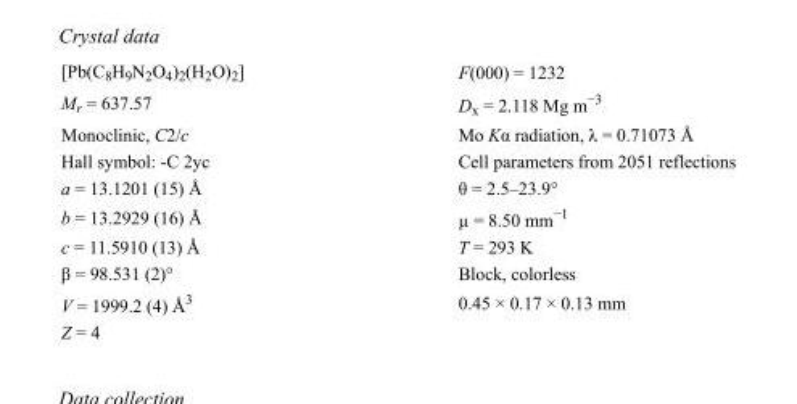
<table><tbody><tr><td>[Pb(C<sub>8</sub>H<sub>9</sub>N<sub>2</sub>O<sub>4</sub>)<sub>2</sub>(H<sub>2</sub>O)<sub>2</sub>]</td><td>F(000) = 1232</td></tr><tr><td>M<sub>r</sub> = 637.57</td><td>D<sub>x</sub> = 2.118 Mg m<sup>−3</sup></td></tr><tr><td>Monoclinic, C2/c</td><td>Mo Kα radiation, λ = 0.71073 Å</td></tr><tr><td>Hall symbol: -C 2yc</td><td>Cell parameters from 2051 reflections</td></tr><tr><td>a = 13.1201 (15) Å</td><td>θ = 2.5–23.9°</td></tr><tr><td>b = 13.2929 (16) Å</td><td>µ = 8.50 mm<sup>−1</sup></td></tr><tr><td>c = 11.5910 (13) Å</td><td>T = 293 K</td></tr><tr><td>β = 98.531 (2)°</td><td>Block, colorless</td></tr><tr><td>V = 1999.2 (4) Å<sup>3</sup></td><td>0.45 × 0.17 × 0.13 mm</td></tr><tr><td>Z = 4</td><td></td></tr></tbody></table>